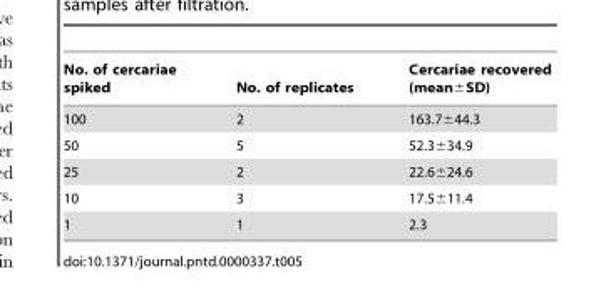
<table><thead><tr><td>No. of cercariae spiked</td><td>No. of replicates</td><td>Cercariae recovered (mean±SD)</td></tr></thead><tbody><tr><td>100</td><td>2</td><td>163.7±44.3</td></tr><tr><td>50</td><td>5</td><td>52.3±34.9</td></tr><tr><td>25</td><td>2</td><td>22.6±24.6</td></tr><tr><td>10</td><td>3</td><td>17.5±11.4</td></tr><tr><td>1</td><td>1</td><td>2.3</td></tr></tbody></table>